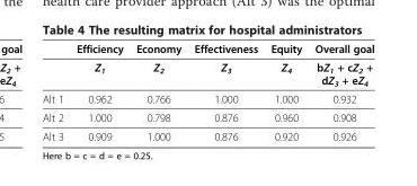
<table><thead><tr><td></td><td>Efficiency</td><td>Economy</td><td>Effectiveness</td><td>Equity</td><td>Overall goal</td></tr></thead><tbody><tr><td></td><td>Z<sub>1</sub></td><td>Z<sub>2</sub></td><td>Z<sub>3</sub></td><td>Z<sub>4</sub></td><td>bZ1 + cZ2 + dZ3 + eZ4</td></tr><tr><td>Alt 1</td><td>0.962</td><td>0.766</td><td>1.000</td><td>1.000</td><td>0.932</td></tr><tr><td>Alt 2</td><td>1.000</td><td>0.798</td><td>0.876</td><td>0.960</td><td>0.908</td></tr><tr><td>Alt 3</td><td>0.909</td><td>1.000</td><td>0.876</td><td>0.920</td><td>0.926</td></tr></tbody></table>